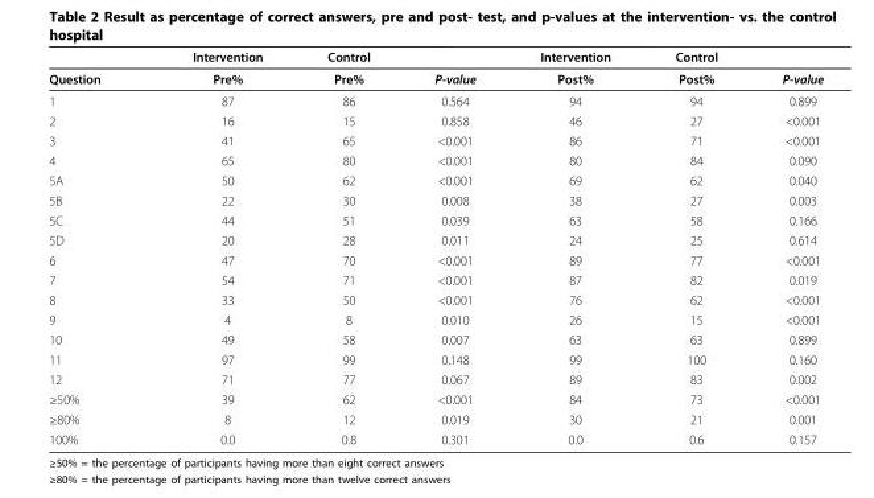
<table><thead><tr><td></td><td>Intervention</td><td>Control</td><td></td><td>Intervention</td><td>Control</td><td></td></tr></thead><tbody><tr><td>Question</td><td>Pre%</td><td>Pre%</td><td>P-value</td><td>Post%</td><td>Post%</td><td>P-value</td></tr><tr><td>1</td><td>87</td><td>86</td><td>0.564</td><td>94</td><td>94</td><td>0.899</td></tr><tr><td>2</td><td>16</td><td>15</td><td>0.858</td><td>46</td><td>27</td><td>&lt;0.001</td></tr><tr><td>3</td><td>41</td><td>65</td><td>&lt;0.001</td><td>86</td><td>71</td><td>&lt;0.001</td></tr><tr><td>4</td><td>65</td><td>80</td><td>&lt;0.001</td><td>80</td><td>84</td><td>0.090</td></tr><tr><td>5A</td><td>50</td><td>62</td><td>&lt;0.001</td><td>69</td><td>62</td><td>0.040</td></tr><tr><td>5B</td><td>22</td><td>30</td><td>0.008</td><td>38</td><td>27</td><td>0.003</td></tr><tr><td>5C</td><td>44</td><td>51</td><td>0.039</td><td>63</td><td>58</td><td>0.166</td></tr><tr><td>5D</td><td>20</td><td>28</td><td>0.011</td><td>24</td><td>25</td><td>0.614</td></tr><tr><td>6</td><td>47</td><td>70</td><td>&lt;0.001</td><td>89</td><td>77</td><td>&lt;0.001</td></tr><tr><td>7</td><td>54</td><td>71</td><td>&lt;0.001</td><td>87</td><td>82</td><td>0.019</td></tr><tr><td>8</td><td>33</td><td>50</td><td>&lt;0.001</td><td>76</td><td>62</td><td>&lt;0.001</td></tr><tr><td>9</td><td>4</td><td>8</td><td>0.010</td><td>26</td><td>15</td><td>&lt;0.001</td></tr><tr><td>10</td><td>49</td><td>58</td><td>0.007</td><td>63</td><td>63</td><td>0.899</td></tr><tr><td>11</td><td>97</td><td>99</td><td>0.148</td><td>99</td><td>100</td><td>0.160</td></tr><tr><td>12</td><td>71</td><td>77</td><td>0.067</td><td>89</td><td>83</td><td>0.002</td></tr><tr><td>≥50%</td><td>39</td><td>62</td><td>&lt;0.001</td><td>84</td><td>73</td><td>&lt;0.001</td></tr><tr><td>≥80%</td><td>8</td><td>12</td><td>0.019</td><td>30</td><td>21</td><td>0.001</td></tr><tr><td>100%</td><td>0.0</td><td>0.8</td><td>0.301</td><td>0.0</td><td>0.6</td><td>0.157</td></tr></tbody></table>